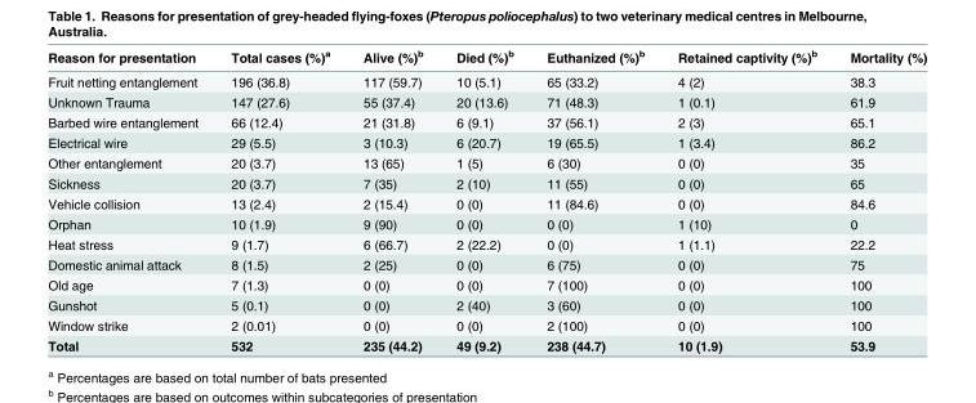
<table><thead><tr><td>Reason for presentation</td><td>Total cases (%)<sup>a</sup></td><td>Alive (%)<sup>b</sup></td><td>Died (%)<sup>b</sup></td><td>Euthanized (%)<sup>b</sup></td><td>Retained captivity (%)<sup>b</sup></td><td>Mortality (%)</td></tr></thead><tbody><tr><td>Fruit netting entanglement</td><td>196 (36.8)</td><td>117 (59.7)</td><td>10 (5.1)</td><td>65 (33.2)</td><td>4 (2)</td><td>38.3</td></tr><tr><td>Unknown Trauma</td><td>147 (27.6)</td><td>55 (37.4)</td><td>20 (13.6)</td><td>71 (48.3)</td><td>1 (0.1)</td><td>61.9</td></tr><tr><td>Barbed wire entanglement</td><td>66 (12.4)</td><td>21 (31.8)</td><td>6 (9.1)</td><td>37 (56.1)</td><td>2 (3)</td><td>65.1</td></tr><tr><td>Electrical wire</td><td>29 (5.5)</td><td>3 (10.3)</td><td>6 (20.7)</td><td>19 (65.5)</td><td>1 (3.4)</td><td>86.2</td></tr><tr><td>Other entanglement</td><td>20 (3.7)</td><td>13 (65)</td><td>1 (5)</td><td>6 (30)</td><td>0 (0)</td><td>35</td></tr><tr><td>Sickness</td><td>20 (3.7)</td><td>7 (35)</td><td>2 (10)</td><td>11 (55)</td><td>0 (0)</td><td>65</td></tr><tr><td>Vehicle collision</td><td>13 (2.4)</td><td>2 (15.4)</td><td>0 (0)</td><td>11 (84.6)</td><td>0 (0)</td><td>84.6</td></tr><tr><td>Orphan</td><td>10 (1.9)</td><td>9 (90)</td><td>0 (0)</td><td>0 (0)</td><td>1 (10)</td><td>0</td></tr><tr><td>Heat stress</td><td>9 (1.7)</td><td>6 (66.7)</td><td>2 (22.2)</td><td>0 (0)</td><td>1 (1.1)</td><td>22.2</td></tr><tr><td>Domestic animal attack</td><td>8 (1.5)</td><td>2 (25)</td><td>0 (0)</td><td>6 (75)</td><td>0 (0)</td><td>75</td></tr><tr><td>Old age</td><td>7 (1.3)</td><td>0 (0)</td><td>0 (0)</td><td>7 (100)</td><td>0 (0)</td><td>100</td></tr><tr><td>Gunshot</td><td>5 (0.1)</td><td>0 (0)</td><td>2 (40)</td><td>3 (60)</td><td>0 (0)</td><td>100</td></tr><tr><td>Window strike</td><td>2 (0.01)</td><td>0 (0)</td><td>0 (0)</td><td>2 (100)</td><td>0 (0)</td><td>100</td></tr><tr><td>Total</td><td>532</td><td>235 (44.2)</td><td>49 (9.2)</td><td>238 (44.7)</td><td>10 (1.9)</td><td>53.9</td></tr></tbody></table>